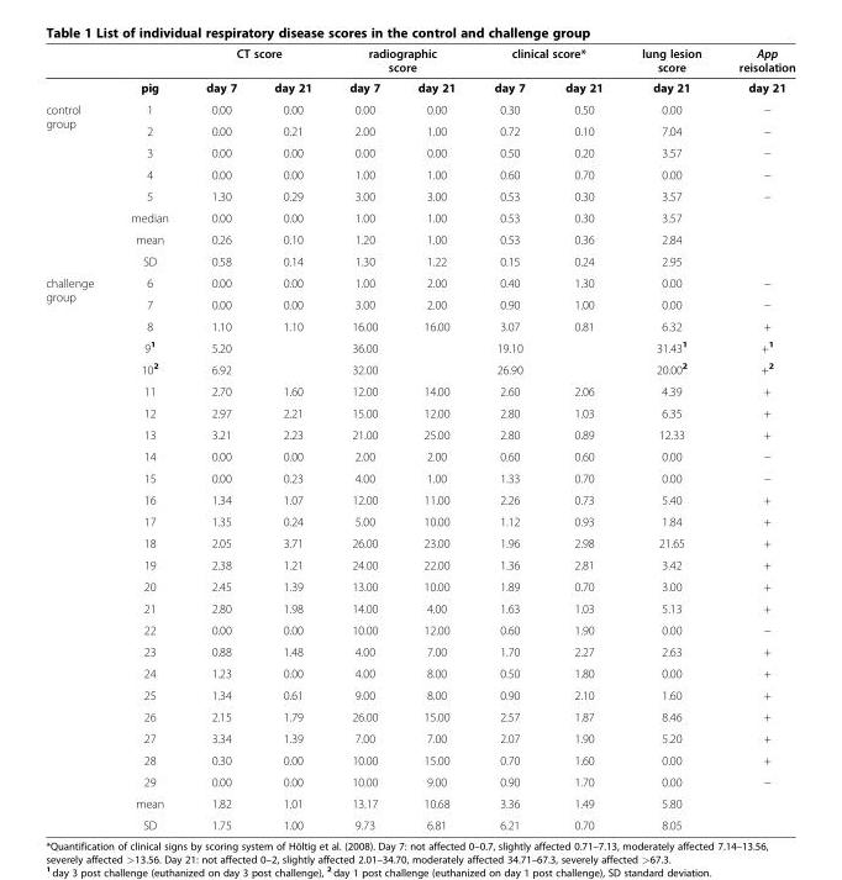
<table><thead><tr><td rowspan="2"></td><td rowspan="2">pig</td><td colspan="2">CT score</td><td colspan="2">radiographic score</td><td colspan="2">clinical score*</td><td rowspan="2">lung lesion score day 21</td><td rowspan="2">App reisolation day 21</td></tr><tr><td>day 7</td><td>day 21</td><td>day 7</td><td>day 21</td><td>day 7</td><td>day 21</td></tr></thead><tbody><tr><td rowspan="8">control group</td><td>1</td><td>0.00</td><td>0.00</td><td>0.00</td><td>0.00</td><td>0.30</td><td>0.50</td><td>0.00</td><td>−</td></tr><tr><td>2</td><td>0.00</td><td>0.21</td><td>2.00</td><td>1.00</td><td>0.72</td><td>0.10</td><td>7.04</td><td>−</td></tr><tr><td>3</td><td>0.00</td><td>0.00</td><td>0.00</td><td>0.00</td><td>0.50</td><td>0.20</td><td>3.57</td><td>−</td></tr><tr><td>4</td><td>0.00</td><td>0.00</td><td>1.00</td><td>1.00</td><td>0.60</td><td>0.70</td><td>0.00</td><td>−</td></tr><tr><td>5</td><td>1.30</td><td>0.29</td><td>3.00</td><td>3.00</td><td>0.53</td><td>0.30</td><td>3.57</td><td>−</td></tr><tr><td>median</td><td>0.00</td><td>0.00</td><td>1.00</td><td>1.00</td><td>0.53</td><td>0.30</td><td>3.57</td><td></td></tr><tr><td>mean</td><td>0.26</td><td>0.10</td><td>1.20</td><td>1.00</td><td>0.53</td><td>0.36</td><td>2.84</td><td></td></tr><tr><td>SD</td><td>0.58</td><td>0.14</td><td>1.30</td><td>1.22</td><td>0.15</td><td>0.24</td><td>2.95</td><td></td></tr><tr><td rowspan="26">challenge group</td><td>6</td><td>0.00</td><td>0.00</td><td>1.00</td><td>2.00</td><td>0.40</td><td>1.30</td><td>0.00</td><td>−</td></tr><tr><td>7</td><td>0.00</td><td>0.00</td><td>3.00</td><td>2.00</td><td>0.90</td><td>1.00</td><td>0.00</td><td>−</td></tr><tr><td>8</td><td>1.10</td><td>1.10</td><td>16.00</td><td>16.00</td><td>3.07</td><td>0.81</td><td>6.32</td><td>+</td></tr><tr><td>9<sup>1</sup></td><td>5.20</td><td></td><td>36.00</td><td></td><td>19.10</td><td></td><td>31.43<sup>1</sup></td><td>+<sup>1</sup></td></tr><tr><td>10<sup>2</sup></td><td>6.92</td><td></td><td>32.00</td><td></td><td>26.90</td><td></td><td>20.00<sup>2</sup></td><td>+<sup>2</sup></td></tr><tr><td>11</td><td>2.70</td><td>1.60</td><td>12.00</td><td>14.00</td><td>2.60</td><td>2.06</td><td>4.39</td><td>+</td></tr><tr><td>12</td><td>2.97</td><td>2.21</td><td>15.00</td><td>12.00</td><td>2.80</td><td>1.03</td><td>6.35</td><td>+</td></tr><tr><td>13</td><td>3.21</td><td>2.23</td><td>21.00</td><td>25.00</td><td>2.80</td><td>0.89</td><td>12.33</td><td>+</td></tr><tr><td>14</td><td>0.00</td><td>0.00</td><td>2.00</td><td>2.00</td><td>0.60</td><td>0.60</td><td>0.00</td><td>−</td></tr><tr><td>15</td><td>0.00</td><td>0.23</td><td>4.00</td><td>1.00</td><td>1.33</td><td>0.70</td><td>0.00</td><td>−</td></tr><tr><td>16</td><td>1.34</td><td>1.07</td><td>12.00</td><td>11.00</td><td>2.26</td><td>0.73</td><td>5.40</td><td>+</td></tr><tr><td>17</td><td>1.35</td><td>0.24</td><td>5.00</td><td>10.00</td><td>1.12</td><td>0.93</td><td>1.84</td><td>+</td></tr><tr><td>18</td><td>2.05</td><td>3.71</td><td>26.00</td><td>23.00</td><td>1.96</td><td>2.98</td><td>21.65</td><td>+</td></tr><tr><td>19</td><td>2.38</td><td>1.21</td><td>24.00</td><td>22.00</td><td>1.36</td><td>2.81</td><td>3.42</td><td>+</td></tr><tr><td>20</td><td>2.45</td><td>1.39</td><td>13.00</td><td>10.00</td><td>1.89</td><td>0.70</td><td>3.00</td><td>+</td></tr><tr><td>21</td><td>2.80</td><td>1.98</td><td>14.00</td><td>4.00</td><td>1.63</td><td>1.03</td><td>5.13</td><td>+</td></tr><tr><td>22</td><td>0.00</td><td>0.00</td><td>10.00</td><td>12.00</td><td>0.60</td><td>1.90</td><td>0.00</td><td>−</td></tr><tr><td>23</td><td>0.88</td><td>1.48</td><td>4.00</td><td>7.00</td><td>1.70</td><td>2.27</td><td>2.63</td><td>+</td></tr><tr><td>24</td><td>1.23</td><td>0.00</td><td>4.00</td><td>8.00</td><td>0.50</td><td>1.80</td><td>0.00</td><td>+</td></tr><tr><td>25</td><td>1.34</td><td>0.61</td><td>9.00</td><td>8.00</td><td>0.90</td><td>2.10</td><td>1.60</td><td>+</td></tr><tr><td>26</td><td>2.15</td><td>1.79</td><td>26.00</td><td>15.00</td><td>2.57</td><td>1.87</td><td>8.46</td><td>+</td></tr><tr><td>27</td><td>3.34</td><td>1.39</td><td>7.00</td><td>7.00</td><td>2.07</td><td>1.90</td><td>5.20</td><td>+</td></tr><tr><td>28</td><td>0.30</td><td>0.00</td><td>10.00</td><td>15.00</td><td>0.70</td><td>1.60</td><td>0.00</td><td>+</td></tr><tr><td>29</td><td>0.00</td><td>0.00</td><td>10.00</td><td>9.00</td><td>0.90</td><td>1.70</td><td>0.00</td><td>−</td></tr><tr><td>mean</td><td>1.82</td><td>1.01</td><td>13.17</td><td>10.68</td><td>3.36</td><td>1.49</td><td>5.80</td><td></td></tr><tr><td>SD</td><td>1.75</td><td>1.00</td><td>9.73</td><td>6.81</td><td>6.21</td><td>0.70</td><td>8.05</td><td></td></tr></tbody></table>